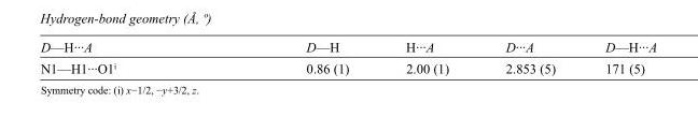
<table><tbody><tr><td>D—H···A</td><td>D—H</td><td>H···A</td><td>D···A</td><td>D—H···A</td></tr><tr><td>N1—H1···O1<sup>i</sup></td><td>0.86 (1)</td><td>2.00 (1)</td><td>2.853 (5)</td><td>171 (5)</td></tr></tbody></table>